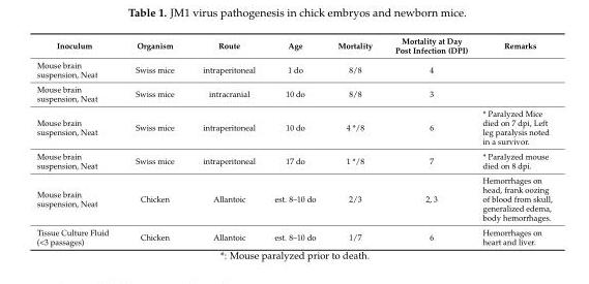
<table><thead><tr><td>Inoculum</td><td>Organism</td><td>Route</td><td>Age</td><td>Mortality</td><td>Mortality at Day Post Infection (DPI)</td><td>Remarks</td></tr></thead><tbody><tr><td>Mouse brain suspension, Neat</td><td>Swiss mice</td><td>intraperitoneal</td><td>1 do</td><td>8/8</td><td>4</td><td></td></tr><tr><td>Mouse brain suspension, Neat</td><td>Swiss mice</td><td>intracranial</td><td>10 do</td><td>8/8</td><td>3</td><td></td></tr><tr><td>Mouse brain suspension, Neat</td><td>Swiss mice</td><td>intraperitoneal</td><td>10 do</td><td>4 */8</td><td>6</td><td>* Paralyzed Mice died on 7 dpi, Left leg paralysis noted in a survivor.</td></tr><tr><td>Mouse brain suspension, Neat</td><td>Swiss mice</td><td>intraperitoneal</td><td>17 do</td><td>1 */8</td><td>7</td><td>* Paralyzed mouse died on 8 dpi.</td></tr><tr><td>Mouse brain suspension, Neat</td><td>Chicken</td><td>Allantoic</td><td>est. 8–10 do</td><td>2/3</td><td>2, 3</td><td>Hemorrhages on head, frank oozing of blood from skull, generalized edema, body hemorrhages.</td></tr><tr><td>Tissue Culture Fluid (&lt;3 passages)</td><td>Chicken</td><td>Allantoic</td><td>est. 8–10 do</td><td>1/7</td><td>6</td><td>Hemorrhages on heart and liver.</td></tr></tbody></table>